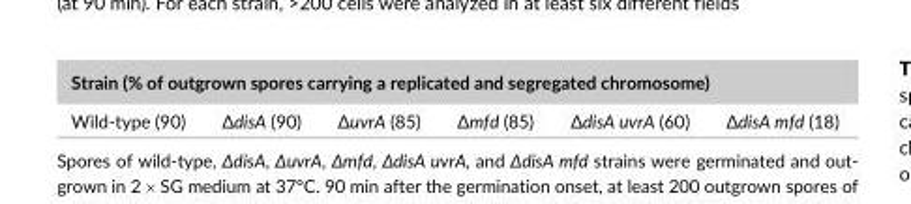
<table><thead><tr><td colspan="6">Strain (% of outgrown spores carrying a replicated and segregated chromosome)</td></tr><tr><td>Wild- type (90)</td><td>∆disA (90)</td><td>∆uvrA (85)</td><td>∆mfd (85)</td><td>∆disA uvrA (60)</td><td>∆disA mfd (18)</td></tr></thead><tbody></tbody></table>